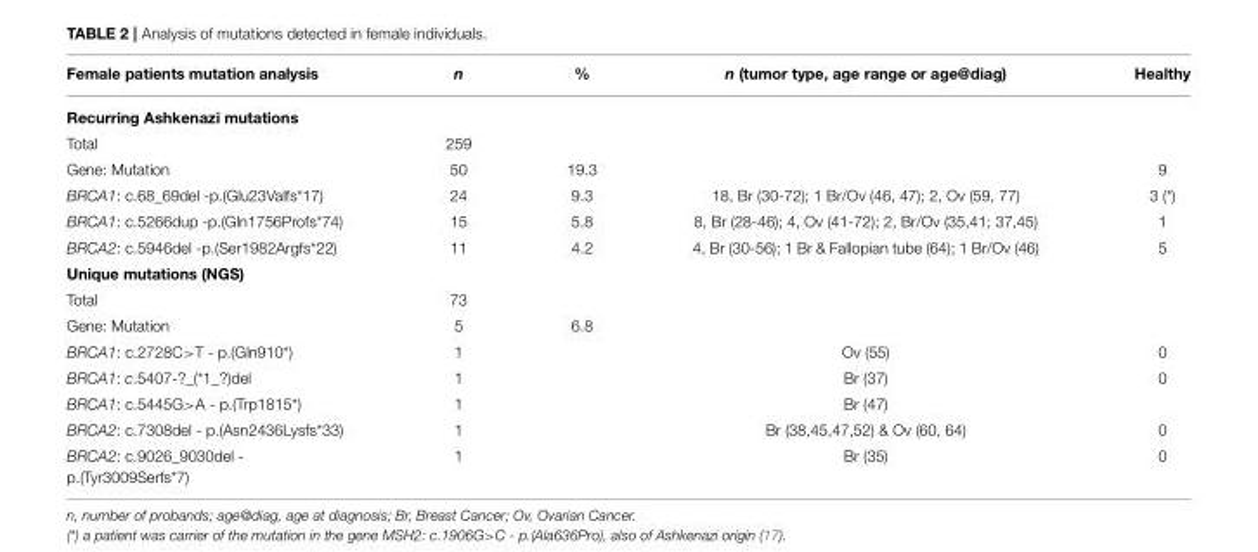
<table><thead><tr><td>Female patients mutation analysis</td><td>n</td><td>%</td><td>n (tumor type, age range or age@diag)</td><td>Healthy</td></tr></thead><tbody><tr><td colspan="5">Recurring Ashkenazi mutations</td></tr><tr><td>Total</td><td>259</td><td></td><td></td><td></td></tr><tr><td>Gene: Mutation</td><td>50</td><td>19.3</td><td></td><td>9</td></tr><tr><td>BRCA1: c.68_69del -p.(Glu23Valfs*17)</td><td>24</td><td>9.3</td><td>18, Br (30-72); 1 Br/Ov (46, 47); 2, Ov (59, 77)</td><td>3 (*)</td></tr><tr><td>BRCA1: c.5266dup -p.(Gln1756Profs*74)</td><td>15</td><td>5.8</td><td>8, Br (28-46); 4, Ov (41-72); 2, Br/Ov (35,41; 37,45)</td><td>1</td></tr><tr><td>BRCA2: c.5946del -p.(Ser1982Argfs*22)</td><td>11</td><td>4.2</td><td>4, Br (30-56); 1 Br &amp; Fallopian tube (64); 1 Br/Ov (46)</td><td>5</td></tr><tr><td colspan="5">Unique mutations (NGS)</td></tr><tr><td>Total</td><td>73</td><td></td><td></td><td></td></tr><tr><td>Gene: Mutation</td><td>5</td><td>6.8</td><td></td><td></td></tr><tr><td>BRCA1: c.2728C&gt;T - p.(Gln910*)</td><td>1</td><td></td><td>Ov (55)</td><td>0</td></tr><tr><td>BRCA1: c.5407-?_(*1_?)del</td><td>1</td><td></td><td>Br (37)</td><td>0</td></tr><tr><td>BRCA1: c.5445G&gt;A - p.(Trp1815*)</td><td>1</td><td></td><td>Br (47)</td><td></td></tr><tr><td>BRCA2: c.7308del - p.(Asn2436Lysfs*33)</td><td>1</td><td></td><td>Br (38,45,47,52) &amp; Ov (60, 64)</td><td>0</td></tr><tr><td>BRCA2: c.9026_9030del - p.(Tyr3009Serfs*7)</td><td>1</td><td></td><td>Br (35)</td><td>0</td></tr></tbody></table>